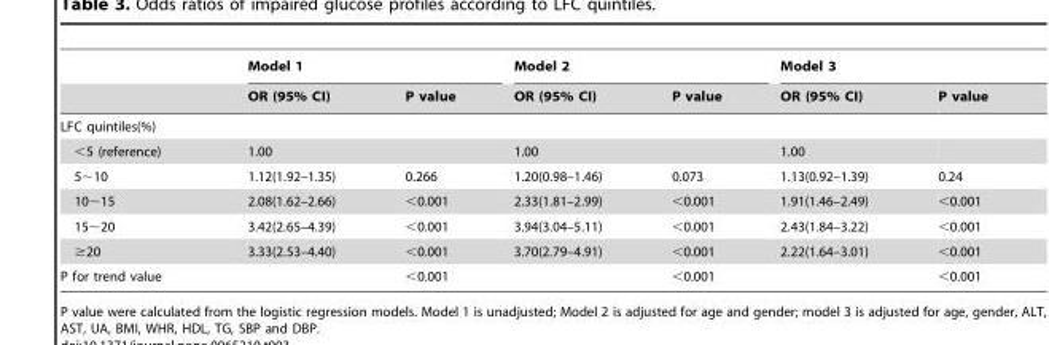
<table><thead><tr><td rowspan="2"></td><td colspan="2">Model 1</td><td colspan="2">Model 2</td><td colspan="2">Model 3</td></tr><tr><td>OR (95% CI)</td><td>P value</td><td>OR (95% CI)</td><td>P value</td><td>OR (95% CI)</td><td>P value</td></tr></thead><tbody><tr><td colspan="7">LFC quintiles(%)</td></tr><tr><td>&lt;5 (reference)</td><td>1.00</td><td></td><td>1.00</td><td></td><td>1.00</td><td></td></tr><tr><td>5∼10</td><td>1.12(1.92–1.35)</td><td>0.266</td><td>1.20(0.98–1.46)</td><td>0.073</td><td>1.13(0.92–1.39)</td><td>0.24</td></tr><tr><td>10∼15</td><td>2.08(1.62–2.66)</td><td>&lt;0.001</td><td>2.33(1.81–2.99)</td><td>&lt;0.001</td><td>1.91(1.46–2.49)</td><td>&lt;0.001</td></tr><tr><td>15∼20</td><td>3.42(2.65–4.39)</td><td>&lt;0.001</td><td>3.94(3.04–5.11)</td><td>&lt;0.001</td><td>2.43(1.84–3.22)</td><td>&lt;0.001</td></tr><tr><td>≥20</td><td>3.33(2.53–4.40)</td><td>&lt;0.001</td><td>3.70(2.79–4.91)</td><td>&lt;0.001</td><td>2.22(1.64–3.01)</td><td>&lt;0.001</td></tr><tr><td>P for trend value</td><td></td><td>&lt;0.001</td><td></td><td>&lt;0.001</td><td></td><td>&lt;0.001</td></tr></tbody></table>